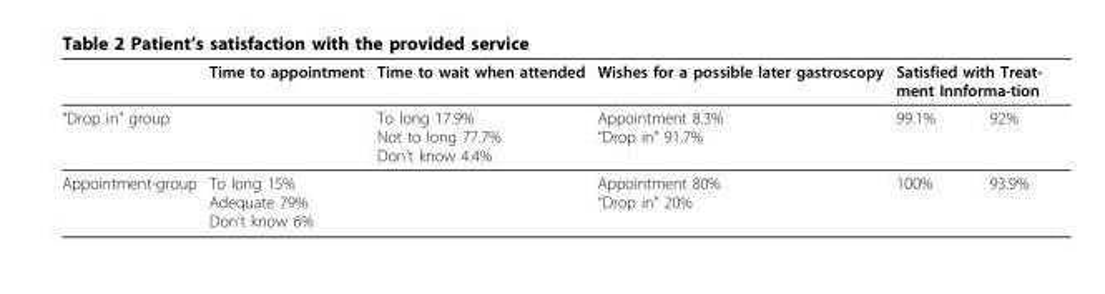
<table><thead><tr><td rowspan="2">“Drop in” group</td><td rowspan="2">Time to appointment</td><td rowspan="2">Time to wait when attended To long 17.9% Not to long 77.7% Don’t know 4.4%</td><td rowspan="2">Wishes for a possible later gastroscopy Appointment 8.3% “Drop in” 91.7%</td><td colspan="2">Satisfied with Treat- ment Innforma-tion</td></tr><tr><td>99.1%</td><td>92%</td></tr></thead><tbody><tr><td>Appointment-group</td><td>To long 15% Adequate 79% Don’t know 6%</td><td></td><td>Appointment 80% “Drop in” 20%</td><td>100%</td><td>93.9%</td></tr></tbody></table>